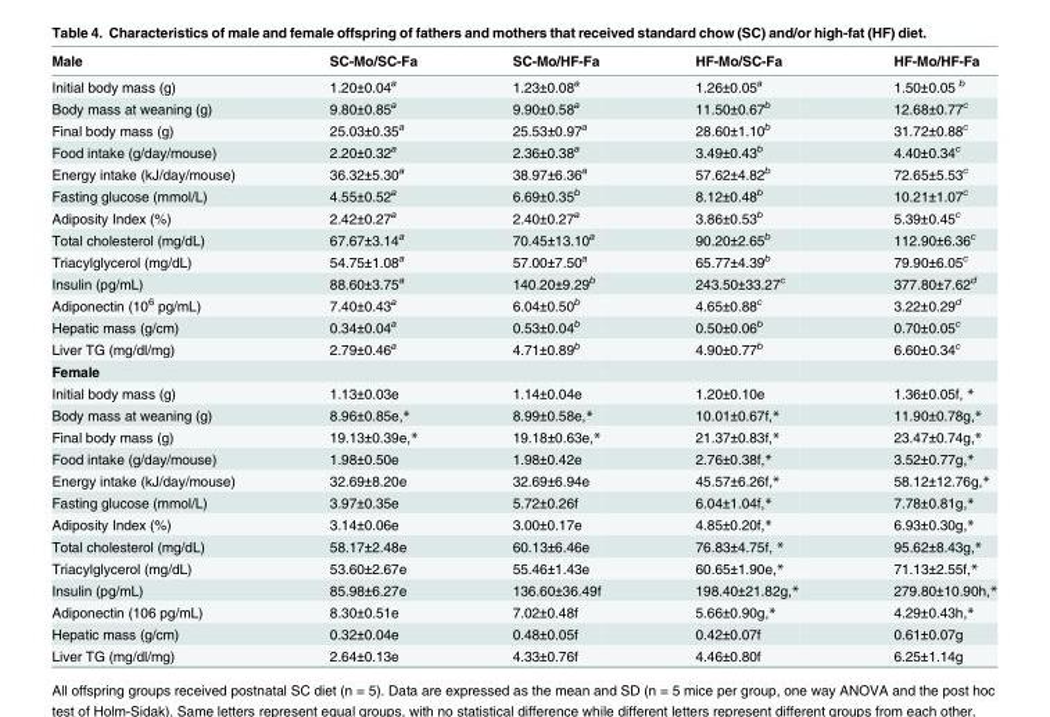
<table><thead><tr><td>Male</td><td>SC-Mo/SC-Fa</td><td>SC-Mo/HF-Fa</td><td>HF-Mo/SC-Fa</td><td>HF-Mo/HF-Fa</td></tr></thead><tbody><tr><td>Initial body mass (g)</td><td>1.20±0.04<sup>a</sup></td><td>1.23±0.08<sup>a</sup></td><td>1.26±0.05<sup>a</sup></td><td>1.50±0.05 <sup>b</sup></td></tr><tr><td>Body mass at weaning (g)</td><td>9.80±0.85<sup>a</sup></td><td>9.90±0.58<sup>a</sup></td><td>11.50±0.67<sup>b</sup></td><td>12.68±0.77<sup>c</sup></td></tr><tr><td>Final body mass (g)</td><td>25.03±0.35<sup>a</sup></td><td>25.53±0.97<sup>a</sup></td><td>28.60±1.10<sup>b</sup></td><td>31.72±0.88<sup>c</sup></td></tr><tr><td>Food intake (g/day/mouse)</td><td>2.20±0.32<sup>a</sup></td><td>2.36±0.38<sup>a</sup></td><td>3.49±0.43<sup>b</sup></td><td>4.40±0.34<sup>c</sup></td></tr><tr><td>Energy intake (kJ/day/mouse)</td><td>36.32±5.30<sup>a</sup></td><td>38.97±6.36<sup>a</sup></td><td>57.62±4.82<sup>b</sup></td><td>72.65±5.53<sup>c</sup></td></tr><tr><td>Fasting glucose (mmol/L)</td><td>4.55±0.52<sup>a</sup></td><td>6.69±0.35<sup>b</sup></td><td>8.12±0.48<sup>b</sup></td><td>10.21±1.07<sup>c</sup></td></tr><tr><td>Adiposity Index (%)</td><td>2.42±0.27<sup>a</sup></td><td>2.40±0.27<sup>a</sup></td><td>3.86±0.53<sup>b</sup></td><td>5.39±0.45<sup>c</sup></td></tr><tr><td>Total cholesterol (mg/dL)</td><td>67.67±3.14<sup>a</sup></td><td>70.45±13.10<sup>a</sup></td><td>90.20±2.65<sup>b</sup></td><td>112.90±6.36<sup>c</sup></td></tr><tr><td>Triacylglycerol (mg/dL)</td><td>54.75±1.08<sup>a</sup></td><td>57.00±7.50<sup>a</sup></td><td>65.77±4.39<sup>b</sup></td><td>79.90±6.05<sup>c</sup></td></tr><tr><td>Insulin (pg/mL)</td><td>88.60±3.75<sup>a</sup></td><td>140.20±9.29<sup>b</sup></td><td>243.50±33.27<sup>c</sup></td><td>377.80±7.62<sup>d</sup></td></tr><tr><td>Adiponectin (10<sup>6</sup> pg/mL)</td><td>7.40±0.43<sup>a</sup></td><td>6.04±0.50<sup>b</sup></td><td>4.65±0.88<sup>c</sup></td><td>3.22±0.29<sup>d</sup></td></tr><tr><td>Hepatic mass (g/cm)</td><td>0.34±0.04<sup>a</sup></td><td>0.53±0.04<sup>b</sup></td><td>0.50±0.06<sup>b</sup></td><td>0.70±0.05<sup>c</sup></td></tr><tr><td>Liver TG (mg/dl/mg)</td><td>2.79±0.46<sup>a</sup></td><td>4.71±0.89<sup>b</sup></td><td>4.90±0.77<sup>b</sup></td><td>6.60±0.34<sup>c</sup></td></tr><tr><td colspan="5">Female</td></tr><tr><td>Initial body mass (g)</td><td>1.13±0.03e</td><td>1.14±0.04e</td><td>1.20±0.10e</td><td>1.36±0.05f, *</td></tr><tr><td>Body mass at weaning (g)</td><td>8.96±0.85e,*</td><td>8.99±0.58e,*</td><td>10.01±0.67f,*</td><td>11.90±0.78g,*</td></tr><tr><td>Final body mass (g)</td><td>19.13±0.39e,*</td><td>19.18±0.63e,*</td><td>21.37±0.83f,*</td><td>23.47±0.74g,*</td></tr><tr><td>Food intake (g/day/mouse)</td><td>1.98±0.50e</td><td>1.98±0.42e</td><td>2.76±0.38f,*</td><td>3.52±0.77g,*</td></tr><tr><td>Energy intake (kJ/day/mouse)</td><td>32.69±8.20e</td><td>32.69±6.94e</td><td>45.57±6.26f,*</td><td>58.12±12.76g,*</td></tr><tr><td>Fasting glucose (mmol/L)</td><td>3.97±0.35e</td><td>5.72±0.26f</td><td>6.04±1.04f,*</td><td>7.78±0.81g,*</td></tr><tr><td>Adiposity Index (%)</td><td>3.14±0.06e</td><td>3.00±0.17e</td><td>4.85±0.20f,*</td><td>6.93±0.30g,*</td></tr><tr><td>Total cholesterol (mg/dL)</td><td>58.17±2.48e</td><td>60.13±6.46e</td><td>76.83±4.75f, *</td><td>95.62±8.43g,*</td></tr><tr><td>Triacylglycerol (mg/dL)</td><td>53.60±2.67e</td><td>55.46±1.43e</td><td>60.65±1.90e,*</td><td>71.13±2.55f,*</td></tr><tr><td>Insulin (pg/mL)</td><td>85.98±6.27e</td><td>136.60±36.49f</td><td>198.40±21.82g,*</td><td>279.80±10.90h,*</td></tr><tr><td>Adiponectin (106 pg/mL)</td><td>8.30±0.51e</td><td>7.02±0.48f</td><td>5.66±0.90g,*</td><td>4.29±0.43h,*</td></tr><tr><td>Hepatic mass (g/cm)</td><td>0.32±0.04e</td><td>0.48±0.05f</td><td>0.42±0.07f</td><td>0.61±0.07g</td></tr><tr><td>Liver TG (mg/dl/mg)</td><td>2.64±0.13e</td><td>4.33±0.76f</td><td>4.46±0.80f</td><td>6.25±1.14g</td></tr></tbody></table>